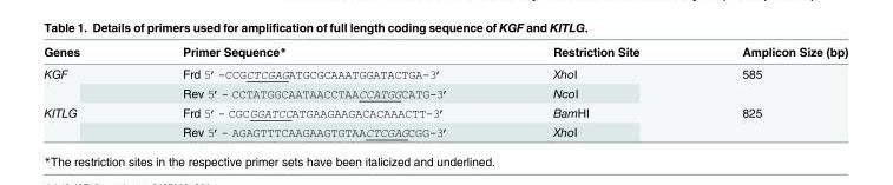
<table><thead><tr><td>Genes</td><td>Primer Sequence*</td><td>Restriction Site</td><td>Amplicon Size (bp)</td></tr></thead><tbody><tr><td rowspan="2">KGF</td><td>Frd 5’-CCGCTCGAGATGCGCAAATGGATACTGA-3’</td><td>XhoI</td><td rowspan="2">585</td></tr><tr><td>Rev 5’- CCTATGGCAATAACCTAACCATGGCATG-3’</td><td>NcoI</td></tr><tr><td rowspan="2">KITLG</td><td>Frd 5’- CGCGGATCCATGAAGAAGACACAAACTT-3’</td><td>BamHI</td><td rowspan="2">825</td></tr><tr><td>Rev 5’- AGAGTTTCAAGAAGTGTAACTCGAGCGG-3’</td><td>XhoI</td></tr></tbody></table>